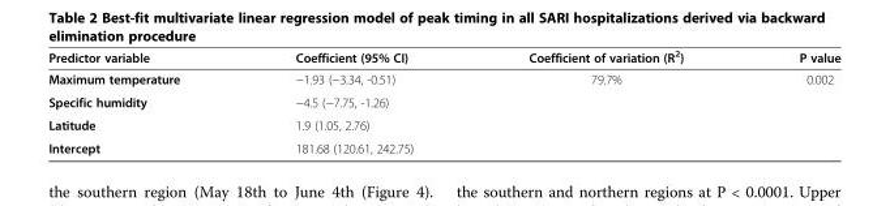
<table><thead><tr><td>Predictor variable</td><td>Coefficient (95% CI)</td><td>Coefficient of variation (R<sup>2</sup>)</td><td>P value</td></tr></thead><tbody><tr><td>Maximum temperature</td><td>−1.93 (−3.34, -0.51)</td><td>79.7%</td><td>0.002</td></tr><tr><td>Specific humidity</td><td>−4.5 (−7.75, -1.26)</td><td></td><td></td></tr><tr><td>Latitude</td><td>1.9 (1.05, 2.76)</td><td></td><td></td></tr><tr><td>Intercept</td><td>181.68 (120.61, 242.75)</td><td></td><td></td></tr></tbody></table>